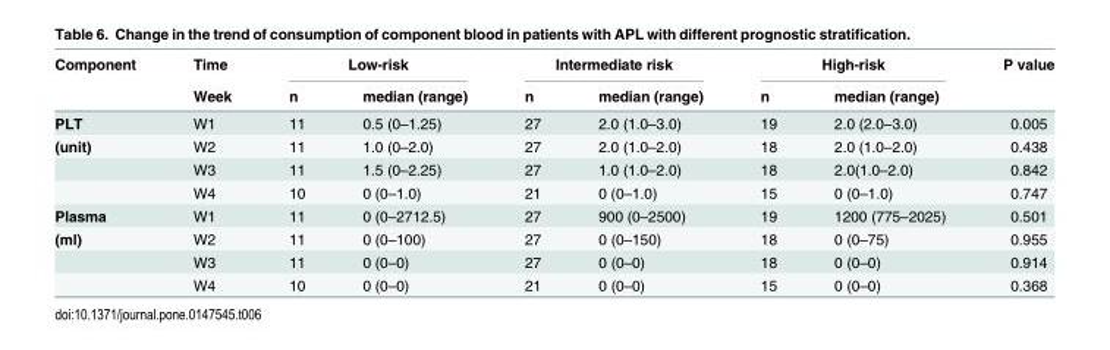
<table><thead><tr><td rowspan="2">Component</td><td rowspan="2">Time Week</td><td colspan="2">Low-risk</td><td colspan="2">Intermediate risk</td><td colspan="2">High-risk</td><td rowspan="2">P value</td></tr><tr><td>n</td><td>median (range)</td><td>n</td><td>median (range)</td><td>n</td><td>median (range)</td></tr></thead><tbody><tr><td>PLT</td><td>W1</td><td>11</td><td>0.5 (0–1.25)</td><td>27</td><td>2.0 (1.0–3.0)</td><td>19</td><td>2.0 (2.0–3.0)</td><td>0.005</td></tr><tr><td rowspan="3">(unit)</td><td>W2</td><td>11</td><td>1.0 (0–2.0)</td><td>27</td><td>2.0 (1.0–2.0)</td><td>18</td><td>2.0 (1.0–2.0)</td><td>0.438</td></tr><tr><td>W3</td><td>11</td><td>1.5 (0–2.25)</td><td>27</td><td>1.0 (1.0–2.0)</td><td>18</td><td>2.0(1.0–2.0)</td><td>0.842</td></tr><tr><td>W4</td><td>10</td><td>0 (0–1.0)</td><td>21</td><td>0 (0–1.0)</td><td>15</td><td>0 (0–1.0)</td><td>0.747</td></tr><tr><td>Plasma</td><td>W1</td><td>11</td><td>0 (0–2712.5)</td><td>27</td><td>900 (0–2500)</td><td>19</td><td>1200 (775–2025)</td><td>0.501</td></tr><tr><td rowspan="3">(ml)</td><td>W2</td><td>11</td><td>0 (0–100)</td><td>27</td><td>0 (0–150)</td><td>18</td><td>0 (0–75)</td><td>0.955</td></tr><tr><td>W3</td><td>11</td><td>0 (0–0)</td><td>27</td><td>0 (0–0)</td><td>18</td><td>0 (0–0)</td><td>0.914</td></tr><tr><td>W4</td><td>10</td><td>0 (0–0)</td><td>21</td><td>0 (0–0)</td><td>15</td><td>0 (0–0)</td><td>0.368</td></tr></tbody></table>